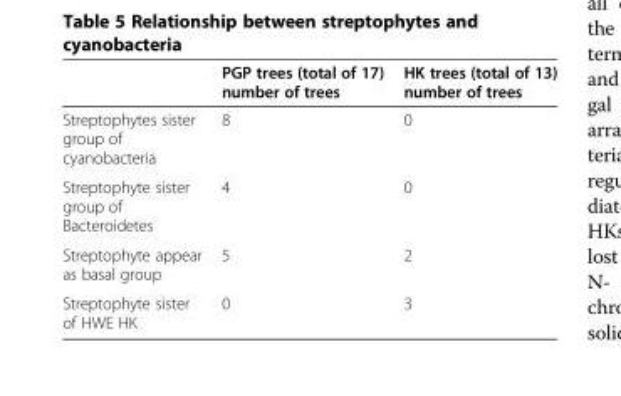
<table><thead><tr><td></td><td>PGP trees (total of 17) number of trees</td><td>HK trees (total of 13) number of trees</td></tr></thead><tbody><tr><td>Streptophytes sister group of cyanobacteria</td><td>8</td><td>0</td></tr><tr><td>Streptophyte sister group of Bacteroidetes</td><td>4</td><td>0</td></tr><tr><td>Streptophyte appear as basal group</td><td>5</td><td>2</td></tr><tr><td>Streptophyte sister of HWE HK</td><td>0</td><td>3</td></tr></tbody></table>